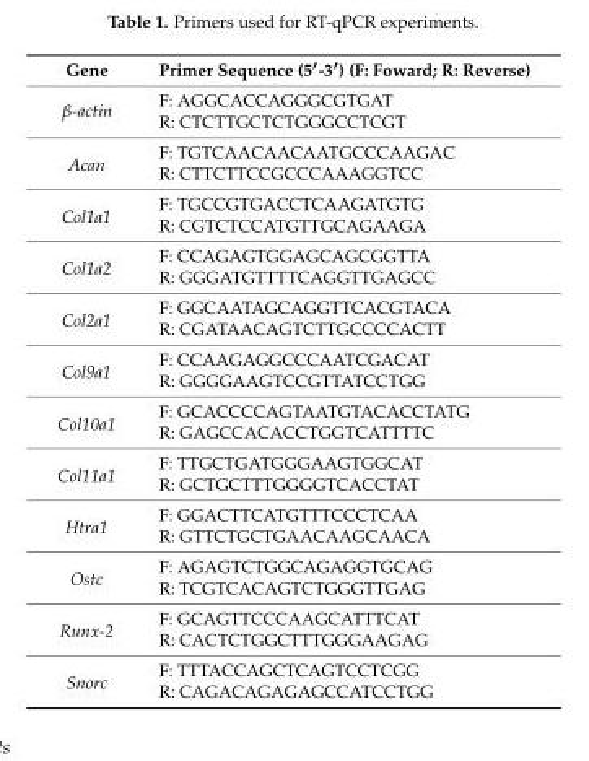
<table><thead><tr><td>Gene</td><td>Primer Sequence (5′-3′) (F: Foward; R: Reverse)</td></tr></thead><tbody><tr><td rowspan="2">β-actin</td><td>F: AGGCACCAGGGCGTGAT</td></tr><tr><td>R: CTCTTGCTCTGGGCCTCGT</td></tr><tr><td rowspan="2">Acan</td><td>F: TGTCAACAACAATGCCCAAGAC</td></tr><tr><td>R: CTTCTTCCGCCCAAAGGTCC</td></tr><tr><td rowspan="2">Col1a1</td><td>F: TGCCGTGACCTCAAGATGTG</td></tr><tr><td>R: CGTCTCCATGTTGCAGAAGA</td></tr><tr><td rowspan="2">Col1a2</td><td>F: CCAGAGTGGAGCAGCGGTTA</td></tr><tr><td>R: GGGATGTTTTCAGGTTGAGCC</td></tr><tr><td rowspan="2">Col2a1</td><td>F: GGCAATAGCAGGTTCACGTACA</td></tr><tr><td>R: CGATAACAGTCTTGCCCCACTT</td></tr><tr><td rowspan="2">Col9a1</td><td>F: CCAAGAGGCCCAATCGACAT</td></tr><tr><td>R: GGGGAAGTCCGTTATCCTGG</td></tr><tr><td rowspan="2">Col10a1</td><td>F: GCACCCCAGTAATGTACACCTATG</td></tr><tr><td>R: GAGCCACACCTGGTCATTTTC</td></tr><tr><td rowspan="2">Col11a1</td><td>F: TTGCTGATGGGAAGTGGCAT</td></tr><tr><td>R: GCTGCTTTGGGGTCACCTAT</td></tr><tr><td rowspan="2">Htra1</td><td>F: GGACTTCATGTTTCCCTCAA</td></tr><tr><td>R: GTTCTGCTGAACAAGCAACA</td></tr><tr><td rowspan="2">Ostc</td><td>F: AGAGTCTGGCAGAGGTGCAG</td></tr><tr><td>R: TCGTCACAGTCTGGGTTGAG</td></tr><tr><td rowspan="2">Runx-2</td><td>F: GCAGTTCCCAAGCATTTCAT</td></tr><tr><td>R: CACTCTGGCTTTGGGAAGAG</td></tr><tr><td rowspan="2">Snorc</td><td>F: TTTACCAGCTCAGTCCTCGG</td></tr><tr><td>R: CAGACAGAGAGCCATCCTGG</td></tr></tbody></table>